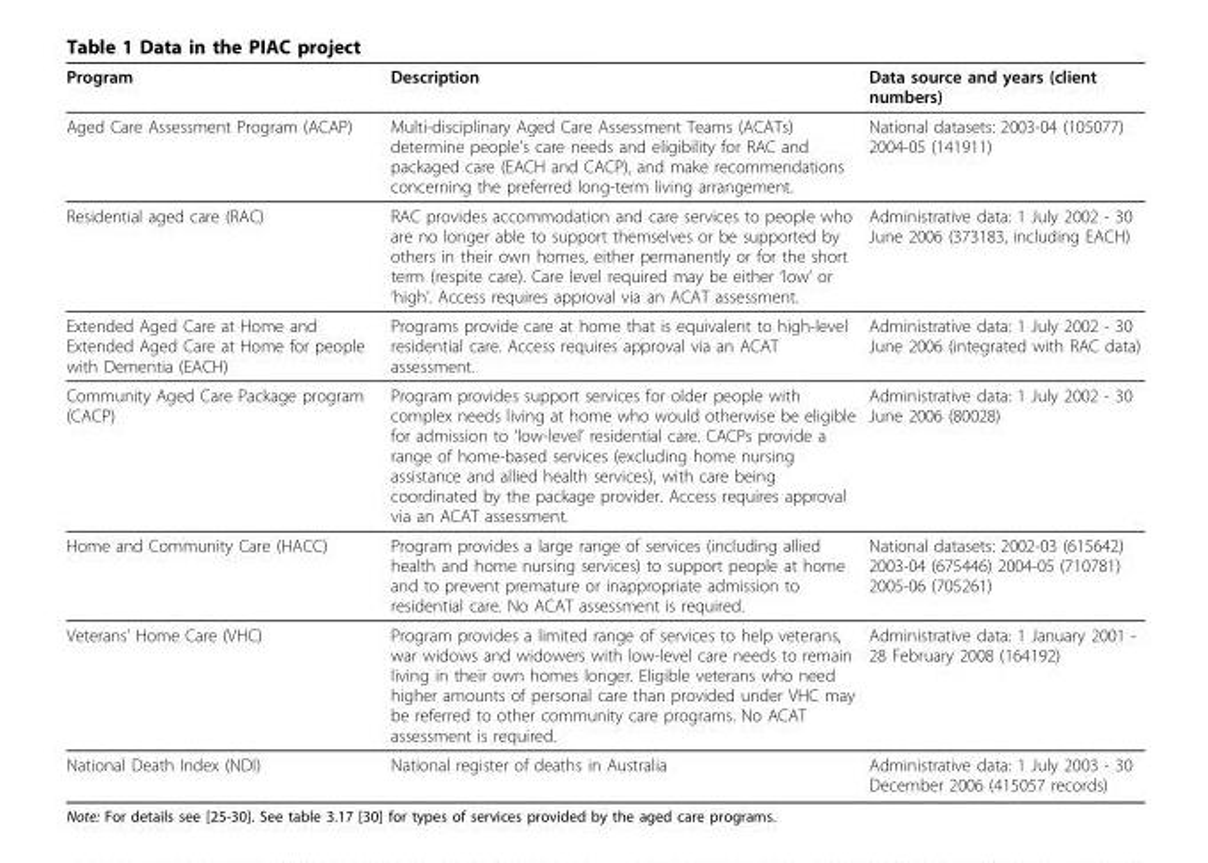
<table><thead><tr><td>Program</td><td>Description</td><td>Data source and years (client numbers)</td></tr></thead><tbody><tr><td>Aged Care Assessment Program (ACAP)</td><td>Multi-disciplinary Aged Care Assessment Teams (ACATs) determine people’s care needs and eligibility for RAC and packaged care (EACH and CACP), and make recommendations concerning the preferred long-term living arrangement.</td><td>National datasets: 2003-04 (105077) 2004-05 (141911)</td></tr><tr><td>Residential aged care (RAC)</td><td>RAC provides accommodation and care services to people who are no longer able to support themselves or be supported by others in their own homes, either permanently or for the short term (respite care). Care level required may be either ‘low’ or ‘high’. Access requires approval via an ACAT assessment.</td><td>Administrative data: 1 July 2002 - 30 June 2006 (373183, including EACH)</td></tr><tr><td>Extended Aged Care at Home and Extended Aged Care at Home for people with Dementia (EACH)</td><td>Programs provide care at home that is equivalent to high-level residential care. Access requires approval via an ACAT assessment.</td><td>Administrative data: 1 July 2002 - 30 June 2006 (integrated with RAC data)</td></tr><tr><td>Community Aged Care Package program (CACP)</td><td>Program provides support services for older people with complex needs living at home who would otherwise be eligible for admission to ‘low-level’ residential care. CACPs provide a range of home-based services (excluding home nursing assistance and allied health services), with care being coordinated by the package provider. Access requires approval via an ACAT assessment.</td><td>Administrative data: 1 July 2002 - 30 June 2006 (80028)</td></tr><tr><td>Home and Community Care (HACC)</td><td>Program provides a large range of services (including allied health and home nursing services) to support people at home and to prevent premature or inappropriate admission to residential care. No ACAT assessment is required.</td><td>National datasets: 2002-03 (615642) 2003-04 (675446) 2004-05 (710781) 2005-06 (705261)</td></tr><tr><td>Veterans’ Home Care (VHC)</td><td>Program provides a limited range of services to help veterans, war widows and widowers with low-level care needs to remain living in their own homes longer. Eligible veterans who need higher amounts of personal care than provided under VHC may be referred to other community care programs. No ACAT assessment is required.</td><td>Administrative data: 1 January 2001 - 28 February 2008 (164192)</td></tr><tr><td>National Death Index (NDI)</td><td>National register of deaths in Australia</td><td>Administrative data: 1 July 2003 - 30 December 2006 (415057 records)</td></tr></tbody></table>